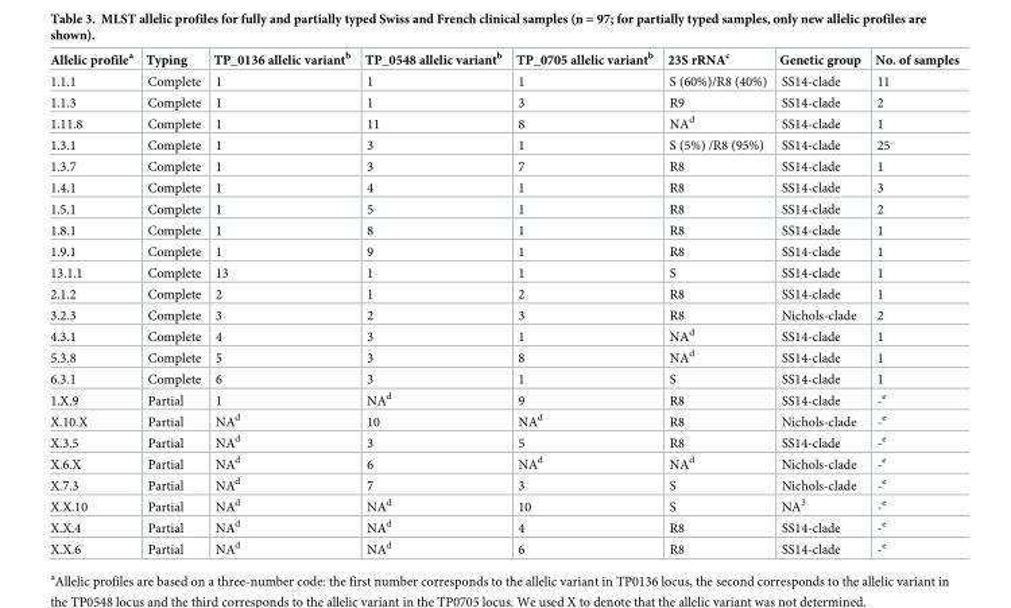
<table><thead><tr><td>Allelic profile<sup>a</sup></td><td>Typing</td><td>TP_0136 allelic variant<sup>b</sup></td><td>TP_0548 allelic variant<sup>b</sup></td><td>TP_0705 allelic variant<sup>b</sup></td><td>23S rRNA<sup>c</sup></td><td>Genetic group</td><td>No. of samples</td></tr></thead><tbody><tr><td>1.1.1</td><td>Complete</td><td>1</td><td>1</td><td>1</td><td>S (60%)/R8 (40%)</td><td>SS14-clade</td><td>11</td></tr><tr><td>1.1.3</td><td>Complete</td><td>1</td><td>1</td><td>3</td><td>R9</td><td>SS14-clade</td><td>2</td></tr><tr><td>1.11.8</td><td>Complete</td><td>1</td><td>11</td><td>8</td><td>NA<sup>d</sup></td><td>SS14-clade</td><td>1</td></tr><tr><td>1.3.1</td><td>Complete</td><td>1</td><td>3</td><td>1</td><td>S (5%) /R8 (95%)</td><td>SS14-clade</td><td>25</td></tr><tr><td>1.3.7</td><td>Complete</td><td>1</td><td>3</td><td>7</td><td>R8</td><td>SS14-clade</td><td>1</td></tr><tr><td>1.4.1</td><td>Complete</td><td>1</td><td>4</td><td>1</td><td>R8</td><td>SS14-clade</td><td>3</td></tr><tr><td>1.5.1</td><td>Complete</td><td>1</td><td>5</td><td>1</td><td>R8</td><td>SS14-clade</td><td>2</td></tr><tr><td>1.8.1</td><td>Complete</td><td>1</td><td>8</td><td>1</td><td>R8</td><td>SS14-clade</td><td>1</td></tr><tr><td>1.9.1</td><td>Complete</td><td>1</td><td>9</td><td>1</td><td>R8</td><td>SS14-clade</td><td>1</td></tr><tr><td>13.1.1</td><td>Complete</td><td>13</td><td>1</td><td>1</td><td>S</td><td>SS14-clade</td><td>1</td></tr><tr><td>2.1.2</td><td>Complete</td><td>2</td><td>1</td><td>2</td><td>R8</td><td>SS14-clade</td><td>1</td></tr><tr><td>3.2.3</td><td>Complete</td><td>3</td><td>2</td><td>3</td><td>R8</td><td>Nichols-clade</td><td>2</td></tr><tr><td>4.3.1</td><td>Complete</td><td>4</td><td>3</td><td>1</td><td>NA<sup>d</sup></td><td>SS14-clade</td><td>1</td></tr><tr><td>5.3.8</td><td>Complete</td><td>5</td><td>3</td><td>8</td><td>NA<sup>d</sup></td><td>SS14-clade</td><td>1</td></tr><tr><td>6.3.1</td><td>Complete</td><td>6</td><td>3</td><td>1</td><td>S</td><td>SS14-clade</td><td>1</td></tr><tr><td>1.X.9</td><td>Partial</td><td>1</td><td>NA<sup>d</sup></td><td>9</td><td>R8</td><td>SS14-clade</td><td>-<sup>e</sup></td></tr><tr><td>X.10.X</td><td>Partial</td><td>NA<sup>d</sup></td><td>10</td><td>NA<sup>d</sup></td><td>R8</td><td>Nichols-clade</td><td>-<sup>e</sup></td></tr><tr><td>X.3.5</td><td>Partial</td><td>NA<sup>d</sup></td><td>3</td><td>5</td><td>R8</td><td>SS14-clade</td><td>-<sup>e</sup></td></tr><tr><td>X.6.X</td><td>Partial</td><td>NA<sup>d</sup></td><td>6</td><td>NA<sup>d</sup></td><td>NA<sup>d</sup></td><td>Nichols-clade</td><td>-<sup>e</sup></td></tr><tr><td>X.7.3</td><td>Partial</td><td>NA<sup>d</sup></td><td>7</td><td>3</td><td>S</td><td>Nichols-clade</td><td>-<sup>e</sup></td></tr><tr><td>X.X.10</td><td>Partial</td><td>NA<sup>d</sup></td><td>NA<sup>d</sup></td><td>10</td><td>S</td><td>NA<sup>3</sup></td><td>-<sup>e</sup></td></tr><tr><td>X.X.4</td><td>Partial</td><td>NA<sup>d</sup></td><td>NA<sup>d</sup></td><td>4</td><td>R8</td><td>SS14-clade</td><td>-<sup>e</sup></td></tr><tr><td>X.X.6</td><td>Partial</td><td>NA<sup>d</sup></td><td>NA<sup>d</sup></td><td>6</td><td>R8</td><td>SS14-clade</td><td>-<sup>e</sup></td></tr></tbody></table>